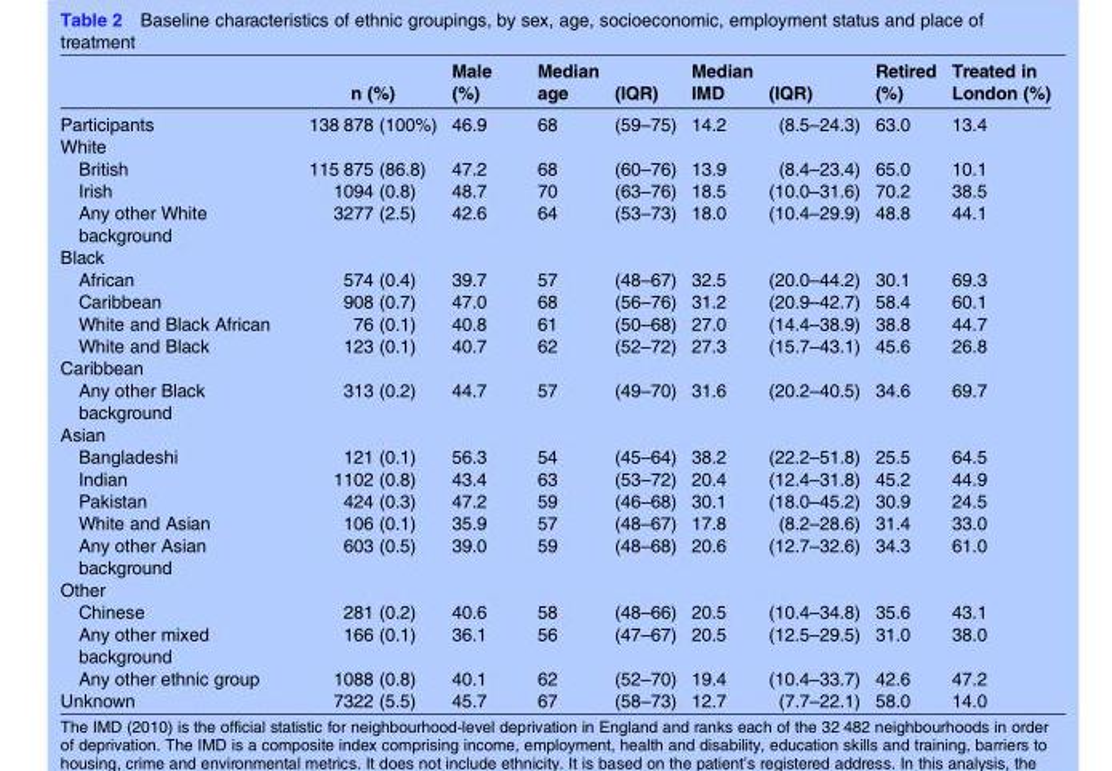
<table><thead><tr><td></td><td>n (%)</td><td>Male (%)</td><td>Median age</td><td>(IQR)</td><td>Median IMD</td><td>(IQR)</td><td>Retired (%)</td><td>Treated in London (%)</td></tr></thead><tbody><tr><td>Participants</td><td>138 878 (100%)</td><td>46.9</td><td>68</td><td>(59–75)</td><td>14.2</td><td>(8.5–24.3)</td><td>63.0</td><td>13.4</td></tr><tr><td colspan="9">White</td></tr><tr><td>British</td><td>115 875 (86.8)</td><td>47.2</td><td>68</td><td>(60–76)</td><td>13.9</td><td>(8.4–23.4)</td><td>65.0</td><td>10.1</td></tr><tr><td>Irish</td><td>1094 (0.8)</td><td>48.7</td><td>70</td><td>(63–76)</td><td>18.5</td><td>(10.0–31.6)</td><td>70.2</td><td>38.5</td></tr><tr><td>Any other White background</td><td>3277 (2.5)</td><td>42.6</td><td>64</td><td>(53–73)</td><td>18.0</td><td>(10.4–29.9)</td><td>48.8</td><td>44.1</td></tr><tr><td colspan="9">Black</td></tr><tr><td>African</td><td>574 (0.4)</td><td>39.7</td><td>57</td><td>(48–67)</td><td>32.5</td><td>(20.0–44.2)</td><td>30.1</td><td>69.3</td></tr><tr><td>Caribbean</td><td>908 (0.7)</td><td>47.0</td><td>68</td><td>(56–76)</td><td>31.2</td><td>(20.9–42.7)</td><td>58.4</td><td>60.1</td></tr><tr><td>White and Black African</td><td>76 (0.1)</td><td>40.8</td><td>61</td><td>(50–68)</td><td>27.0</td><td>(14.4–38.9)</td><td>38.8</td><td>44.7</td></tr><tr><td>White and Black Caribbean</td><td>123 (0.1)</td><td>40.7</td><td>62</td><td>(52–72)</td><td>27.3</td><td>(15.7–43.1)</td><td>45.6</td><td>26.8</td></tr><tr><td>Any other Black background</td><td>313 (0.2)</td><td>44.7</td><td>57</td><td>(49–70)</td><td>31.6</td><td>(20.2–40.5)</td><td>34.6</td><td>69.7</td></tr><tr><td colspan="9">Asian</td></tr><tr><td>Bangladeshi</td><td>121 (0.1)</td><td>56.3</td><td>54</td><td>(45–64)</td><td>38.2</td><td>(22.2–51.8)</td><td>25.5</td><td>64.5</td></tr><tr><td>Indian</td><td>1102 (0.8)</td><td>43.4</td><td>63</td><td>(53–72)</td><td>20.4</td><td>(12.4–31.8)</td><td>45.2</td><td>44.9</td></tr><tr><td>Pakistan</td><td>424 (0.3)</td><td>47.2</td><td>59</td><td>(46–68)</td><td>30.1</td><td>(18.0–45.2)</td><td>30.9</td><td>24.5</td></tr><tr><td>White and Asian</td><td>106 (0.1)</td><td>35.9</td><td>57</td><td>(48–67)</td><td>17.8</td><td>(8.2–28.6)</td><td>31.4</td><td>33.0</td></tr><tr><td>Any other Asian background</td><td>603 (0.5)</td><td>39.0</td><td>59</td><td>(48–68)</td><td>20.6</td><td>(12.7–32.6)</td><td>34.3</td><td>61.0</td></tr><tr><td colspan="9">Other</td></tr><tr><td>Chinese</td><td>281 (0.2)</td><td>40.6</td><td>58</td><td>(48–66)</td><td>20.5</td><td>(10.4–34.8)</td><td>35.6</td><td>43.1</td></tr><tr><td>Any other mixed background</td><td>166 (0.1)</td><td>36.1</td><td>56</td><td>(47–67)</td><td>20.5</td><td>(12.5–29.5)</td><td>31.0</td><td>38.0</td></tr><tr><td>Any other ethnic group</td><td>1088 (0.8)</td><td>40.1</td><td>62</td><td>(52–70)</td><td>19.4</td><td>(10.4–33.7)</td><td>42.6</td><td>47.2</td></tr><tr><td>Unknown</td><td>7322 (5.5)</td><td>45.7</td><td>67</td><td>(58–73)</td><td>12.7</td><td>(7.7–22.1)</td><td>58.0</td><td>14.0</td></tr></tbody></table>